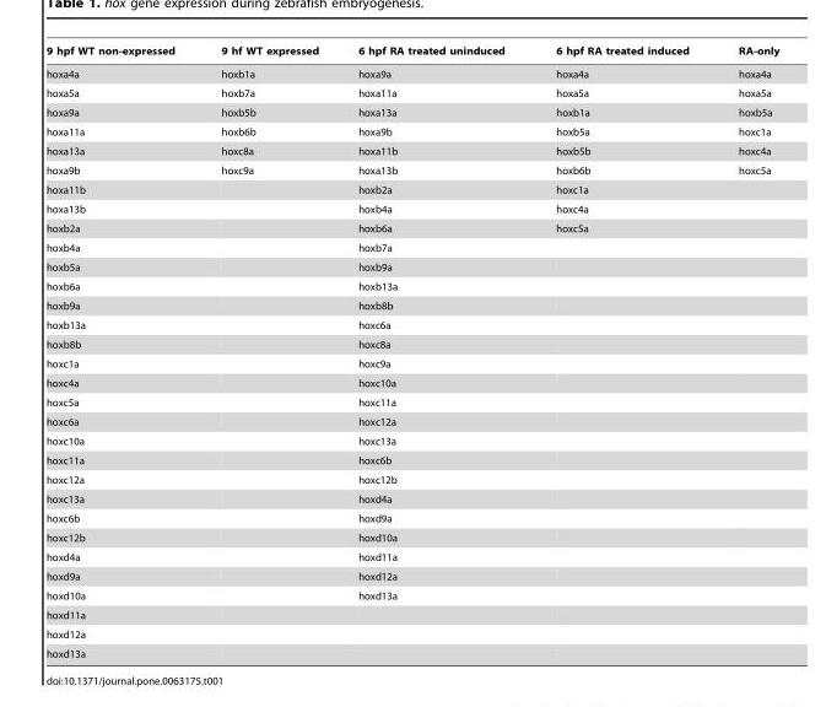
<table><thead><tr><td>9 hpf WT non-expressed</td><td>9 hf WT expressed</td><td>6 hpf RA treated uninduced</td><td>6 hpf RA treated induced</td><td>RA-only</td></tr></thead><tbody><tr><td>hoxa4a</td><td>hoxb1a</td><td>hoxa9a</td><td>hoxa4a</td><td>hoxa4a</td></tr><tr><td>hoxa5a</td><td>hoxb7a</td><td>hoxa11a</td><td>hoxa5a</td><td>hoxa5a</td></tr><tr><td>hoxa9a</td><td>hoxb5b</td><td>hoxa13a</td><td>hoxb1a</td><td>hoxb5a</td></tr><tr><td>hoxa11a</td><td>hoxb6b</td><td>hoxa9b</td><td>hoxb5a</td><td>hoxc1a</td></tr><tr><td>hoxa13a</td><td>hoxc8a</td><td>hoxa11b</td><td>hoxb5b</td><td>hoxc4a</td></tr><tr><td>hoxa9b</td><td>hoxc9a</td><td>hoxa13b</td><td>hoxb6b</td><td>hoxc5a</td></tr><tr><td>hoxa11b</td><td></td><td>hoxb2a</td><td>hoxc1a</td><td></td></tr><tr><td>hoxa13b</td><td></td><td>hoxb4a</td><td>hoxc4a</td><td></td></tr><tr><td>hoxb2a</td><td></td><td>hoxb6a</td><td>hoxc5a</td><td></td></tr><tr><td>hoxb4a</td><td></td><td>hoxb7a</td><td></td><td></td></tr><tr><td>hoxb5a</td><td></td><td>hoxb9a</td><td></td><td></td></tr><tr><td>hoxb6a</td><td></td><td>hoxb13a</td><td></td><td></td></tr><tr><td>hoxb9a</td><td></td><td>hoxb8b</td><td></td><td></td></tr><tr><td>hoxb13a</td><td></td><td>hoxc6a</td><td></td><td></td></tr><tr><td>hoxb8b</td><td></td><td>hoxc8a</td><td></td><td></td></tr><tr><td>hoxc1a</td><td></td><td>hoxc9a</td><td></td><td></td></tr><tr><td>hoxc4a</td><td></td><td>hoxc10a</td><td></td><td></td></tr><tr><td>hoxc5a</td><td></td><td>hoxc11a</td><td></td><td></td></tr><tr><td>hoxc6a</td><td></td><td>hoxc12a</td><td></td><td></td></tr><tr><td>hoxc10a</td><td></td><td>hoxc13a</td><td></td><td></td></tr><tr><td>hoxc11a</td><td></td><td>hoxc6b</td><td></td><td></td></tr><tr><td>hoxc12a</td><td></td><td>hoxc12b</td><td></td><td></td></tr><tr><td>hoxc13a</td><td></td><td>hoxd4a</td><td></td><td></td></tr><tr><td>hoxc6b</td><td></td><td>hoxd9a</td><td></td><td></td></tr><tr><td>hoxc12b</td><td></td><td>hoxd10a</td><td></td><td></td></tr><tr><td>hoxd4a</td><td></td><td>hoxd11a</td><td></td><td></td></tr><tr><td>hoxd9a</td><td></td><td>hoxd12a</td><td></td><td></td></tr><tr><td>hoxd10a</td><td></td><td>hoxd13a</td><td></td><td></td></tr><tr><td colspan="5">hoxd11a</td></tr><tr><td colspan="5">hoxd12a</td></tr><tr><td>hoxd13a</td><td></td><td></td><td></td><td></td></tr></tbody></table>